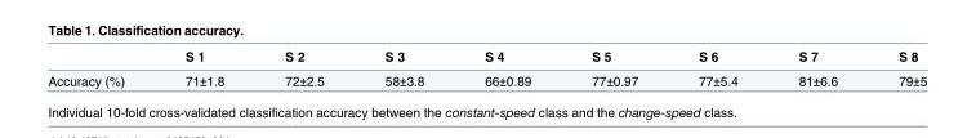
<table><thead><tr><td></td><td>S 1</td><td>S 2</td><td>S 3</td><td>S 4</td><td>S 5</td><td>S 6</td><td>S 7</td><td>S 8</td></tr></thead><tbody><tr><td>Accuracy (%)</td><td>71±1.8</td><td>72±2.5</td><td>58±3.8</td><td>66±0.89</td><td>77±0.97</td><td>77±5.4</td><td>81±6.6</td><td>79±5</td></tr></tbody></table>